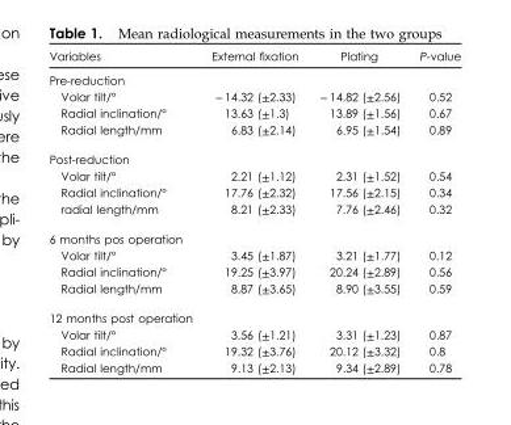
<table><thead><tr><td>Variables</td><td>External fixation</td><td>Plating</td><td>P-value</td></tr></thead><tbody><tr><td colspan="4">Pre-reduction</td></tr><tr><td>Volar tilt/°</td><td>− 14.32 (±2.33)</td><td>− 14.82 (±2.56)</td><td>0.52</td></tr><tr><td>Radial inclination/°</td><td>13.63 (±1.3)</td><td>13.89 (±1.56)</td><td>0.67</td></tr><tr><td>Radial length/mm</td><td>6.83 (±2.14)</td><td>6.95 (±1.54)</td><td>0.89</td></tr><tr><td colspan="4">Post-reduction</td></tr><tr><td>Volar tilt/°</td><td>2.21 (±1.12)</td><td>2.31 (±1.52)</td><td>0.54</td></tr><tr><td>Radial inclination/°</td><td>17.76 (±2.32)</td><td>17.56 (±2.15)</td><td>0.34</td></tr><tr><td>radial length/mm</td><td>8.21 (±2.33)</td><td>7.76 (±2.46)</td><td>0.32</td></tr><tr><td colspan="4">6 months pos operation</td></tr><tr><td>Volar tilt/°</td><td>3.45 (±1.87)</td><td>3.21 (±1.77)</td><td>0.12</td></tr><tr><td>Radial inclination/°</td><td>19.25 (±3.97)</td><td>20.24 (±2.89)</td><td>0.56</td></tr><tr><td>Radial length/mm</td><td>8.87 (±3.65)</td><td>8.90 (±3.55)</td><td>0.59</td></tr><tr><td colspan="4">12 months post operation</td></tr><tr><td>Volar tilt/°</td><td>3.56 (±1.21)</td><td>3.31 (±1.23)</td><td>0.87</td></tr><tr><td>Radial inclination/°</td><td>19.32 (±3.76)</td><td>20.12 (±3.32)</td><td>0.8</td></tr><tr><td>Radial length/mm</td><td>9.13 (±2.13)</td><td>9.34 (±2.89)</td><td>0.78</td></tr></tbody></table>